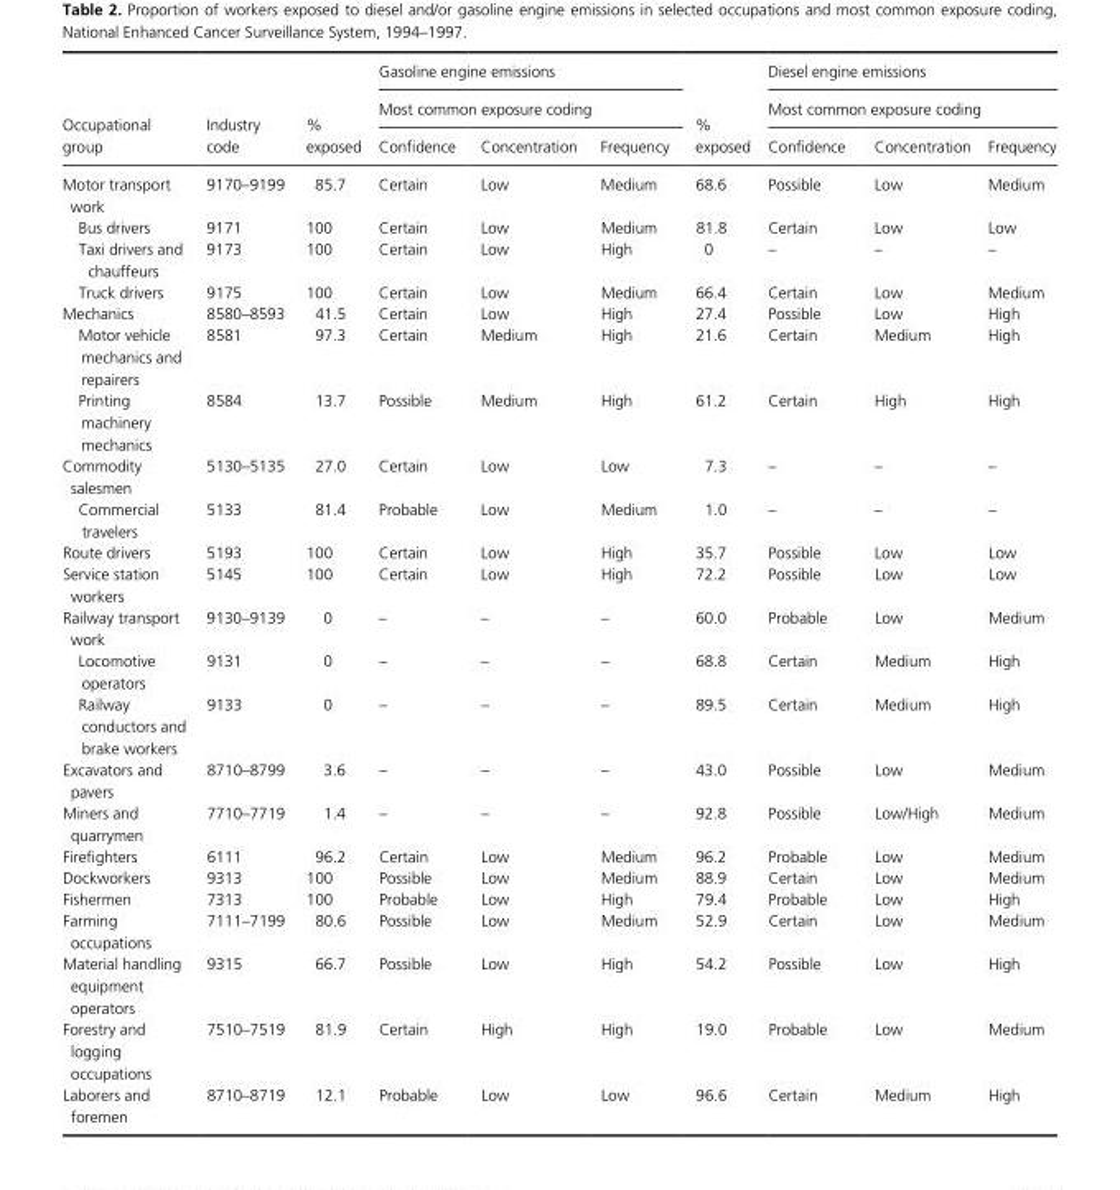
<table><thead><tr><td rowspan="3">Occupational group</td><td rowspan="3">Industry code</td><td rowspan="3">% exposed</td><td rowspan="2" colspan="3">Gasoline engine emissions Most common exposure coding</td><td rowspan="3">% exposed</td><td rowspan="2" colspan="3">Diesel engine emissions Most common exposure coding</td></tr><tr></tr><tr><td>Confidence</td><td>Concentration</td><td>Frequency</td><td>Confidence</td><td>Concentration</td><td>Frequency</td></tr></thead><tbody><tr><td>Motor transport work</td><td>9170–9199</td><td>85.7</td><td>Certain</td><td>Low</td><td>Medium</td><td>68.6</td><td>Possible</td><td>Low</td><td>Medium</td></tr><tr><td>Bus drivers</td><td>9171</td><td>100</td><td>Certain</td><td>Low</td><td>Medium</td><td>81.8</td><td>Certain</td><td>Low</td><td>Low</td></tr><tr><td>Taxi drivers and chauffeurs</td><td>9173</td><td>100</td><td>Certain</td><td>Low</td><td>High</td><td>0</td><td>–</td><td>–</td><td>–</td></tr><tr><td>Truck drivers</td><td>9175</td><td>100</td><td>Certain</td><td>Low</td><td>Medium</td><td>66.4</td><td>Certain</td><td>Low</td><td>Medium</td></tr><tr><td>Mechanics</td><td>8580–8593</td><td>41.5</td><td>Certain</td><td>Low</td><td>High</td><td>27.4</td><td>Possible</td><td>Low</td><td>High</td></tr><tr><td>Motor vehicle mechanics and repairers</td><td>8581</td><td>97.3</td><td>Certain</td><td>Medium</td><td>High</td><td>21.6</td><td>Certain</td><td>Medium</td><td>High</td></tr><tr><td>Printing machinery mechanics</td><td>8584</td><td>13.7</td><td>Possible</td><td>Medium</td><td>High</td><td>61.2</td><td>Certain</td><td>High</td><td>High</td></tr><tr><td>Commodity salesmen</td><td>5130–5135</td><td>27.0</td><td>Certain</td><td>Low</td><td>Low</td><td>7.3</td><td>–</td><td>–</td><td>–</td></tr><tr><td>Commercial travelers</td><td>5133</td><td>81.4</td><td>Probable</td><td>Low</td><td>Medium</td><td>1.0</td><td>–</td><td>–</td><td>–</td></tr><tr><td>Route drivers</td><td>5193</td><td>100</td><td>Certain</td><td>Low</td><td>High</td><td>35.7</td><td>Possible</td><td>Low</td><td>Low</td></tr><tr><td>Service station workers</td><td>5145</td><td>100</td><td>Certain</td><td>Low</td><td>High</td><td>72.2</td><td>Possible</td><td>Low</td><td>Low</td></tr><tr><td>Railway transport work</td><td>9130–9139</td><td>0</td><td>–</td><td>–</td><td>–</td><td>60.0</td><td>Probable</td><td>Low</td><td>Medium</td></tr><tr><td>Locomotive operators</td><td>9131</td><td>0</td><td>–</td><td>–</td><td>–</td><td>68.8</td><td>Certain</td><td>Medium</td><td>High</td></tr><tr><td>Railway conductors and brake workers</td><td>9133</td><td>0</td><td>–</td><td>–</td><td>–</td><td>89.5</td><td>Certain</td><td>Medium</td><td>High</td></tr><tr><td>Excavators and pavers</td><td>8710–8799</td><td>3.6</td><td>–</td><td>–</td><td>–</td><td>43.0</td><td>Possible</td><td>Low</td><td>Medium</td></tr><tr><td>Miners and quarrymen</td><td>7710–7719</td><td>1.4</td><td>–</td><td>–</td><td>–</td><td>92.8</td><td>Possible</td><td>Low/High</td><td>Medium</td></tr><tr><td>Firefighters</td><td>6111</td><td>96.2</td><td>Certain</td><td>Low</td><td>Medium</td><td>96.2</td><td>Probable</td><td>Low</td><td>Medium</td></tr><tr><td>Dockworkers</td><td>9313</td><td>100</td><td>Possible</td><td>Low</td><td>Medium</td><td>88.9</td><td>Certain</td><td>Low</td><td>Medium</td></tr><tr><td>Fishermen</td><td>7313</td><td>100</td><td>Probable</td><td>Low</td><td>High</td><td>79.4</td><td>Probable</td><td>Low</td><td>High</td></tr><tr><td>Farming occupations</td><td>7111–7199</td><td>80.6</td><td>Possible</td><td>Low</td><td>Medium</td><td>52.9</td><td>Certain</td><td>Low</td><td>Medium</td></tr><tr><td>Material handling equipment operators</td><td>9315</td><td>66.7</td><td>Possible</td><td>Low</td><td>High</td><td>54.2</td><td>Possible</td><td>Low</td><td>High</td></tr><tr><td>Forestry and logging occupations</td><td>7510–7519</td><td>81.9</td><td>Certain</td><td>High</td><td>High</td><td>19.0</td><td>Probable</td><td>Low</td><td>Medium</td></tr><tr><td>Laborers and foremen</td><td>8710–8719</td><td>12.1</td><td>Probable</td><td>Low</td><td>Low</td><td>96.6</td><td>Certain</td><td>Medium</td><td>High</td></tr></tbody></table>